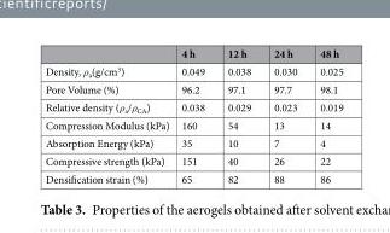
<table><thead><tr><td></td><td>4 h</td><td>12 h</td><td>24 h</td><td>48 h</td></tr></thead><tbody><tr><td>Density, ρ<sub>a</sub>(g/cm<sup>3</sup>)</td><td>0.049</td><td>0.038</td><td>0.030</td><td>0.025</td></tr><tr><td>Pore Volume (%)</td><td>96.2</td><td>97.1</td><td>97.7</td><td>98.1</td></tr><tr><td>Relative density (ρ<sub>a</sub>/ρ<sub>CA</sub>)</td><td>0.038</td><td>0.029</td><td>0.023</td><td>0.019</td></tr><tr><td>Compression Modulus (kPa)</td><td>160</td><td>54</td><td>13</td><td>14</td></tr><tr><td>Absorption Energy (kPa)</td><td>35</td><td>10</td><td>7</td><td>4</td></tr><tr><td>Compressive strength (kPa)</td><td>151</td><td>40</td><td>26</td><td>22</td></tr><tr><td>Densification strain (%)</td><td>65</td><td>82</td><td>88</td><td>86</td></tr></tbody></table>